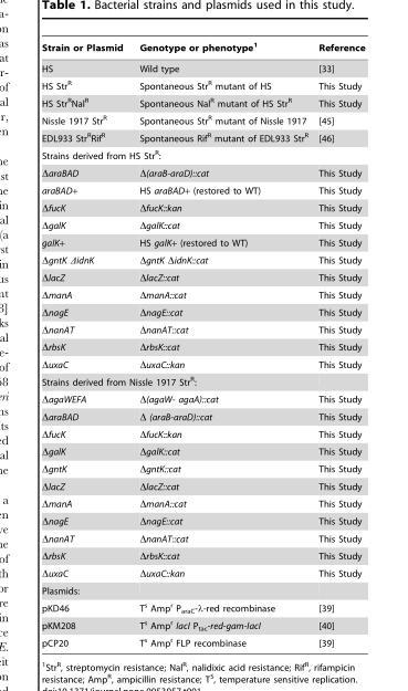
<table><thead><tr><td>Strain or Plasmid</td><td>Genotype or phenotype<sup>1</sup></td><td>Reference</td></tr></thead><tbody><tr><td>HS</td><td>Wild type</td><td>[33]</td></tr><tr><td>HS Str<sup>R</sup></td><td>Spontaneous Str<sup>R</sup> mutant of HS</td><td>This Study</td></tr><tr><td>HS Str<sup>R</sup>Nal<sup>R</sup></td><td>Spontaneous Nal<sup>R</sup> mutant of HS Str<sup>R</sup></td><td>This Study</td></tr><tr><td>Nissle 1917 Str<sup>R</sup></td><td>Spontaneous Str<sup>R</sup> mutant of Nissle 1917</td><td>[45]</td></tr><tr><td>EDL933 Str<sup>R</sup>Rif<sup>R</sup></td><td>Spontaneous Rif<sup>R</sup> mutant of EDL933 Str<sup>R</sup></td><td>[46]</td></tr><tr><td colspan="3">Strains derived from HS Str<sup>R</sup>:</td></tr><tr><td>ΔaraBAD</td><td>Δ(araB-araD)::cat</td><td>This Study</td></tr><tr><td>araBAD+</td><td>HS araBAD+ (restored to WT)</td><td>This Study</td></tr><tr><td>ΔfucK</td><td>ΔfucK::kan</td><td>This Study</td></tr><tr><td>ΔgalK</td><td>ΔgalK::cat</td><td>This Study</td></tr><tr><td>galK+</td><td>HS galK+ (restored to WT)</td><td>This Study</td></tr><tr><td>ΔgntK ΔidnK</td><td>ΔgntK ΔidnK::cat</td><td>This Study</td></tr><tr><td>ΔlacZ</td><td>ΔlacZ::cat</td><td>This Study</td></tr><tr><td>ΔmanA</td><td>ΔmanA::cat</td><td>This Study</td></tr><tr><td>ΔnagE</td><td>ΔnagE::cat</td><td>This Study</td></tr><tr><td>ΔnanAT</td><td>ΔnanAT::cat</td><td>This Study</td></tr><tr><td>ΔrbsK</td><td>ΔrbsK::cat</td><td>This Study</td></tr><tr><td>ΔuxaC</td><td>ΔuxaC::kan</td><td>This Study</td></tr><tr><td colspan="3">Strains derived from Nissle 1917 Str<sup>R</sup>:</td></tr><tr><td>ΔagaWEFA</td><td>Δ(agaW- agaA)::cat</td><td>This Study</td></tr><tr><td>ΔaraBAD</td><td>Δ (araB-araD)::cat</td><td>This Study</td></tr><tr><td>ΔfucK</td><td>ΔfucK::kan</td><td>This Study</td></tr><tr><td>ΔgalK</td><td>ΔgalK::cat</td><td>This Study</td></tr><tr><td>ΔgntK</td><td>ΔgntK::cat</td><td>This Study</td></tr><tr><td>ΔlacZ</td><td>ΔlacZ::cat</td><td>This Study</td></tr><tr><td>ΔmanA</td><td>ΔmanA::cat</td><td>This Study</td></tr><tr><td>ΔnagE</td><td>ΔnagE::cat</td><td>This Study</td></tr><tr><td>ΔnanAT</td><td>ΔnanAT::cat</td><td>This Study</td></tr><tr><td>ΔrbsK</td><td>ΔrbsK::cat</td><td>This Study</td></tr><tr><td>ΔuxaC</td><td>ΔuxaC::kan</td><td>This Study</td></tr><tr><td colspan="3">Plasmids:</td></tr><tr><td>pKD46</td><td>T<sup>s</sup> Amp<sup>r</sup> P<sub>araC</sub>-λ-red recombinase</td><td>[39]</td></tr><tr><td>pKM208</td><td>T<sup>s</sup> Amp<sup>r</sup> lacI P<sub>tac</sub>-red-gam-lacI</td><td>[40]</td></tr><tr><td>pCP20</td><td>T<sup>s</sup> Amp<sup>r</sup> FLP recombinase</td><td>[39]</td></tr></tbody></table>